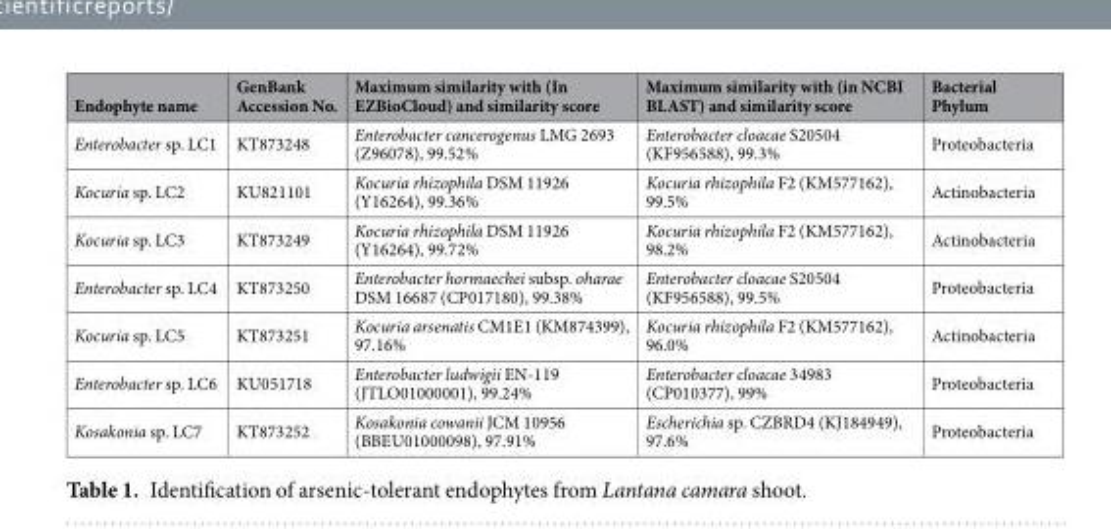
<table><thead><tr><td>Endophyte name</td><td>GenBank Accession No.</td><td>Maximum similarity with (In EZBioCloud) and similarity score</td><td>Maximum similarity with (in NCBI BLAST) and similarity score</td><td>Bacterial Phylum</td></tr></thead><tbody><tr><td>Enterobacter sp. LC1</td><td>KT873248</td><td>Enterobacter cancerogenus LMG 2693 (Z96078), 99.52%</td><td>Enterobacter cloacae S20504 (KF956588), 99.3%</td><td>Proteobacteria</td></tr><tr><td>Kocuria sp. LC2</td><td>KU821101</td><td>Kocuria rhizophila DSM 11926 (Y16264), 99.36%</td><td>Kocuria rhizophila F2 (KM577162), 99.5%</td><td>Actinobacteria</td></tr><tr><td>Kocuria sp. LC3</td><td>KT873249</td><td>Kocuria rhizophila DSM 11926 (Y16264), 99.72%</td><td>Kocuria rhizophila F2 (KM577162), 98.2%</td><td>Actinobacteria</td></tr><tr><td>Enterobacter sp. LC4</td><td>KT873250</td><td>Enterobacter hormaechei subsp. oharae DSM 16687 (CP017180), 99.38%</td><td>Enterobacter cloacae S20504 (KF956588), 99.5%</td><td>Proteobacteria</td></tr><tr><td>Kocuria sp. LC5</td><td>KT873251</td><td>Kocuria arsenatis CM1E1 (KM874399), 97.16%</td><td>Kocuria rhizophila F2 (KM577162), 96.0%</td><td>Actinobacteria</td></tr><tr><td>Enterobacter sp. LC6</td><td>KU051718</td><td>Enterobacter ludwigii EN-119 (JTLO01000001), 99.24%</td><td>Enterobacter cloacae 34983 (CP010377), 99%</td><td>Proteobacteria</td></tr><tr><td>Kosakonia sp. LC7</td><td>KT873252</td><td>Kosakonia cowanii JCM 10956 (BBEU01000098), 97.91%</td><td>Escherichia sp. CZBRD4 (KJ184949), 97.6%</td><td>Proteobacteria</td></tr></tbody></table>